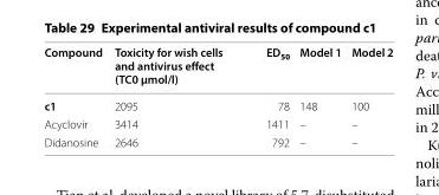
<table><thead><tr><td>Compound</td><td>Toxicity for wish cells and antivirus effect (TC0 µmol/l)</td><td>ED<sub>50</sub></td><td>Model 1</td><td>Model 2</td></tr></thead><tbody><tr><td>c1</td><td>2095</td><td>78</td><td>148</td><td>100</td></tr><tr><td>Acyclovir</td><td>3414</td><td>1411</td><td>–</td><td>–</td></tr><tr><td>Didanosine</td><td>2646</td><td>792</td><td>–</td><td>–</td></tr></tbody></table>